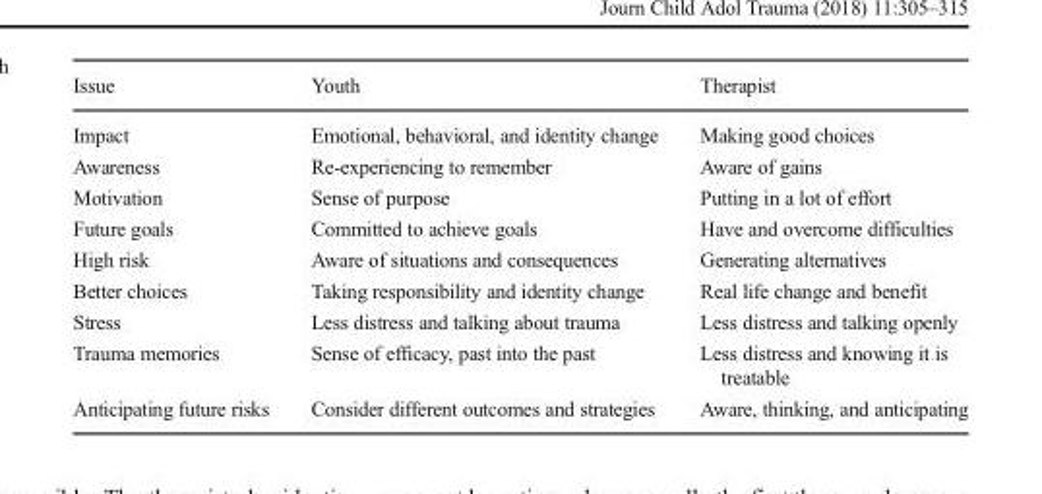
<table><thead><tr><td>Issue</td><td>Youth</td><td>Therapist</td></tr></thead><tbody><tr><td>Impact</td><td>Emotional, behavioral, and identity change</td><td>Making good choices</td></tr><tr><td>Awareness</td><td>Re-experiencing to remember</td><td>Aware of gains</td></tr><tr><td>Motivation</td><td>Sense of purpose</td><td>Putting in a lot of effort</td></tr><tr><td>Future goals</td><td>Committed to achieve goals</td><td>Have and overcome difficulties</td></tr><tr><td>High risk</td><td>Aware of situations and consequences</td><td>Generating alternatives</td></tr><tr><td>Better choices</td><td>Taking responsibility and identity change</td><td>Real life change and benefit</td></tr><tr><td>Stress</td><td>Less distress and talking about trauma</td><td>Less distress and talking openly</td></tr><tr><td>Trauma memories</td><td>Sense of efficacy, past into the past</td><td>Less distress and knowing it is treatable</td></tr><tr><td>Anticipating future risks</td><td>Consider different outcomes and strategies</td><td>Aware, thinking, and anticipating</td></tr></tbody></table>